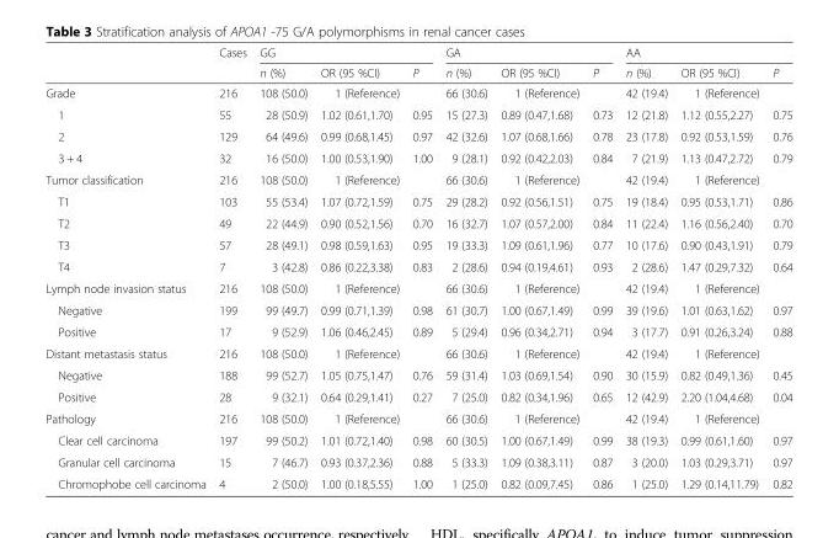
<table><thead><tr><td rowspan="2"></td><td rowspan="2">Cases</td><td colspan="3">GG</td><td colspan="3">GA</td><td colspan="3">AA</td></tr><tr><td>n (%)</td><td>OR (95 %CI)</td><td>P</td><td>n (%)</td><td>OR (95 %CI)</td><td>P</td><td>n (%)</td><td>OR (95 %CI)</td><td>P</td></tr></thead><tbody><tr><td>Grade</td><td>216</td><td>108 (50.0)</td><td>1 (Reference)</td><td></td><td>66 (30.6)</td><td>1 (Reference)</td><td></td><td>42 (19.4)</td><td>1 (Reference)</td><td></td></tr><tr><td>1</td><td>55</td><td>28 (50.9)</td><td>1.02 (0.61,1.70)</td><td>0.95</td><td>15 (27.3)</td><td>0.89 (0.47,1.68)</td><td>0.73</td><td>12 (21.8)</td><td>1.12 (0.55,2.27)</td><td>0.75</td></tr><tr><td>2</td><td>129</td><td>64 (49.6)</td><td>0.99 (0.68,1.45)</td><td>0.97</td><td>42 (32.6)</td><td>1.07 (0.68,1.66)</td><td>0.78</td><td>23 (17.8)</td><td>0.92 (0.53,1.59)</td><td>0.76</td></tr><tr><td>3 + 4</td><td>32</td><td>16 (50.0)</td><td>1.00 (0.53,1.90)</td><td>1.00</td><td>9 (28.1)</td><td>0.92 (0.42,2.03)</td><td>0.84</td><td>7 (21.9)</td><td>1.13 (0.47,2.72)</td><td>0.79</td></tr><tr><td>Tumor classification</td><td>216</td><td>108 (50.0)</td><td>1 (Reference)</td><td></td><td>66 (30.6)</td><td>1 (Reference)</td><td></td><td>42 (19.4)</td><td>1 (Reference)</td><td></td></tr><tr><td>T1</td><td>103</td><td>55 (53.4)</td><td>1.07 (0.72,1.59)</td><td>0.75</td><td>29 (28.2)</td><td>0.92 (0.56,1.51)</td><td>0.75</td><td>19 (18.4)</td><td>0.95 (0.53,1.71)</td><td>0.86</td></tr><tr><td>T2</td><td>49</td><td>22 (44.9)</td><td>0.90 (0.52,1.56)</td><td>0.70</td><td>16 (32.7)</td><td>1.07 (0.57,2.00)</td><td>0.84</td><td>11 (22.4)</td><td>1.16 (0.56,2.40)</td><td>0.70</td></tr><tr><td>T3</td><td>57</td><td>28 (49.1)</td><td>0.98 (0.59,1.63)</td><td>0.95</td><td>19 (33.3)</td><td>1.09 (0.61,1.96)</td><td>0.77</td><td>10 (17.6)</td><td>0.90 (0.43,1.91)</td><td>0.79</td></tr><tr><td>T4</td><td>7</td><td>3 (42.8)</td><td>0.86 (0.22,3.38)</td><td>0.83</td><td>2 (28.6)</td><td>0.94 (0.19,4.61)</td><td>0.93</td><td>2 (28.6)</td><td>1.47 (0.29,7.32)</td><td>0.64</td></tr><tr><td>Lymph node invasion status</td><td>216</td><td>108 (50.0)</td><td>1 (Reference)</td><td></td><td>66 (30.6)</td><td>1 (Reference)</td><td></td><td>42 (19.4)</td><td>1 (Reference)</td><td></td></tr><tr><td>Negative</td><td>199</td><td>99 (49.7)</td><td>0.99 (0.71,1.39)</td><td>0.98</td><td>61 (30.7)</td><td>1.00 (0.67,1.49)</td><td>0.99</td><td>39 (19.6)</td><td>1.01 (0.63,1.62)</td><td>0.97</td></tr><tr><td>Positive</td><td>17</td><td>9 (52.9)</td><td>1.06 (0.46,2.45)</td><td>0.89</td><td>5 (29.4)</td><td>0.96 (0.34,2.71)</td><td>0.94</td><td>3 (17.7)</td><td>0.91 (0.26,3.24)</td><td>0.88</td></tr><tr><td>Distant metastasis status</td><td>216</td><td>108 (50.0)</td><td>1 (Reference)</td><td></td><td>66 (30.6)</td><td>1 (Reference)</td><td></td><td>42 (19.4)</td><td>1 (Reference)</td><td></td></tr><tr><td>Negative</td><td>188</td><td>99 (52.7)</td><td>1.05 (0.75,1.47)</td><td>0.76</td><td>59 (31.4)</td><td>1.03 (0.69,1.54)</td><td>0.90</td><td>30 (15.9)</td><td>0.82 (0.49,1.36)</td><td>0.45</td></tr><tr><td>Positive</td><td>28</td><td>9 (32.1)</td><td>0.64 (0.29,1.41)</td><td>0.27</td><td>7 (25.0)</td><td>0.82 (0.34,1.96)</td><td>0.65</td><td>12 (42.9)</td><td>2.20 (1.04,4.68)</td><td>0.04</td></tr><tr><td>Pathology</td><td>216</td><td>108 (50.0)</td><td>1 (Reference)</td><td></td><td>66 (30.6)</td><td>1 (Reference)</td><td></td><td>42 (19.4)</td><td>1 (Reference)</td><td></td></tr><tr><td>Clear cell carcinoma</td><td>197</td><td>99 (50.2)</td><td>1.01 (0.72,1.40)</td><td>0.98</td><td>60 (30.5)</td><td>1.00 (0.67,1.49)</td><td>0.99</td><td>38 (19.3)</td><td>0.99 (0.61,1.60)</td><td>0.97</td></tr><tr><td>Granular cell carcinoma</td><td>15</td><td>7 (46.7)</td><td>0.93 (0.37,2.36)</td><td>0.88</td><td>5 (33.3)</td><td>1.09 (0.38,3.11)</td><td>0.87</td><td>3 (20.0)</td><td>1.03 (0.29,3.71)</td><td>0.97</td></tr><tr><td>Chromophobe cell carcinoma</td><td>4</td><td>2 (50.0)</td><td>1.00 (0.18,5.55)</td><td>1.00</td><td>1 (25.0)</td><td>0.82 (0.09,7.45)</td><td>0.86</td><td>1 (25.0)</td><td>1.29 (0.14,11.79)</td><td>0.82</td></tr></tbody></table>